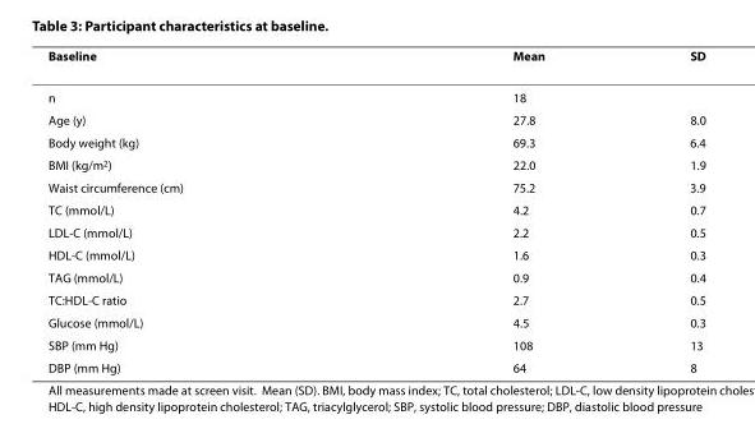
<table><thead><tr><td>Baseline</td><td>Mean</td><td>SD</td></tr></thead><tbody><tr><td>n</td><td>18</td><td></td></tr><tr><td>Age (y)</td><td>27.8</td><td>8.0</td></tr><tr><td>Body weight (kg)</td><td>69.3</td><td>6.4</td></tr><tr><td>BMI (kg/m<sup>2</sup>)</td><td>22.0</td><td>1.9</td></tr><tr><td>Waist circumference (cm)</td><td>75.2</td><td>3.9</td></tr><tr><td>TC (mmol/L)</td><td>4.2</td><td>0.7</td></tr><tr><td>LDL-C (mmol/L)</td><td>2.2</td><td>0.5</td></tr><tr><td>HDL-C (mmol/L)</td><td>1.6</td><td>0.3</td></tr><tr><td>TAG (mmol/L)</td><td>0.9</td><td>0.4</td></tr><tr><td>TC:HDL-C ratio</td><td>2.7</td><td>0.5</td></tr><tr><td>Glucose (mmol/L)</td><td>4.5</td><td>0.3</td></tr><tr><td>SBP (mm Hg)</td><td>108</td><td>13</td></tr><tr><td>DBP (mm Hg)</td><td>64</td><td>8</td></tr></tbody></table>